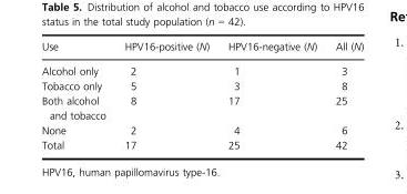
<table><thead><tr><td>Use</td><td>HPV16-positive (N)</td><td>HPV16-negative (N)</td><td>All (N)</td></tr></thead><tbody><tr><td>Alcohol only</td><td>2</td><td>1</td><td>3</td></tr><tr><td>Tobacco only</td><td>5</td><td>3</td><td>8</td></tr><tr><td>Both alcohol and tobacco</td><td>8</td><td>17</td><td>25</td></tr><tr><td>None</td><td>2</td><td>4</td><td>6</td></tr><tr><td>Total</td><td>17</td><td>25</td><td>42</td></tr></tbody></table>